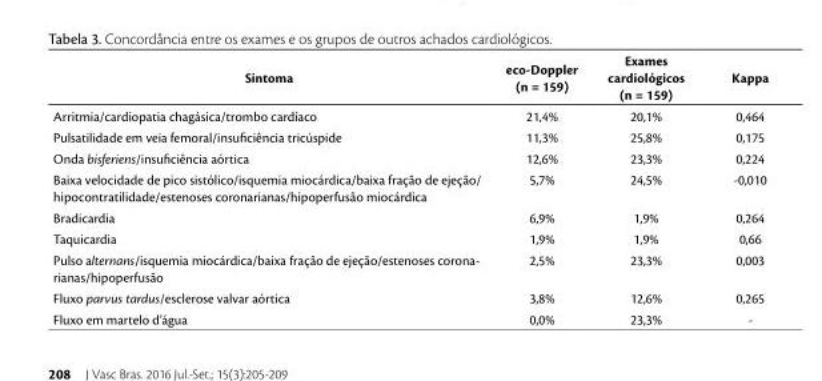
<table><thead><tr><td>Sintoma</td><td>eco-Doppler (n = 159)</td><td>Exames cardiológicos (n = 159)</td><td>Kappa</td></tr></thead><tbody><tr><td>Arritmia/cardiopatia chagásica/trombo cardíaco</td><td>21,4%</td><td>20,1%</td><td>0,464</td></tr><tr><td>Pulsatilidade em veia femoral/insuficiência tricúspide</td><td>11,3%</td><td>25,8%</td><td>0,175</td></tr><tr><td>Onda bisferiens/insuficiência aórtica</td><td>12,6%</td><td>23,3%</td><td>0,224</td></tr><tr><td>Baixa velocidade de pico sistólico/isquemia miocárdica/baixa fração de ejeção/ hipocontratilidade/estenoses coronarianas/hipoperfusão miocárdica</td><td>5,7%</td><td>24,5%</td><td>-0,010</td></tr><tr><td>Bradicardia</td><td>6,9%</td><td>1,9%</td><td>0,264</td></tr><tr><td>Taquicardia</td><td>1,9%</td><td>1,9%</td><td>0,66</td></tr><tr><td>Pulso alternans/isquemia miocárdica/baixa fração de ejeção/estenoses corona- rianas/hipoperfusão</td><td>2,5%</td><td>23,3%</td><td>0,003</td></tr><tr><td>Fluxo parvus tardus/esclerose valvar aórtica</td><td>3,8%</td><td>12,6%</td><td>0,265</td></tr><tr><td>Fluxo em martelo d’água</td><td>0,0%</td><td>23,3%</td><td>-</td></tr></tbody></table>